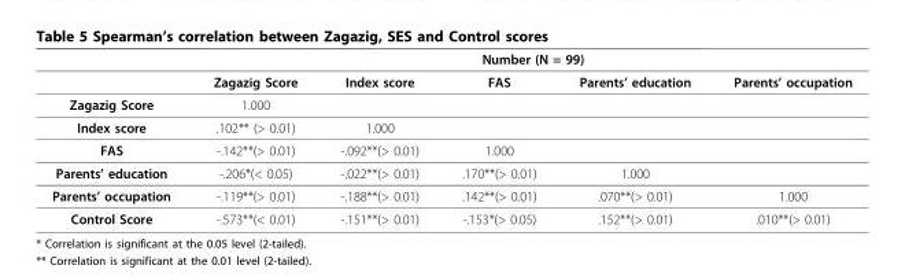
<table><thead><tr><td rowspan="2"></td><td colspan="5">Number (N = 99)</td></tr><tr><td>Zagazig Score</td><td>Index score</td><td>FAS</td><td>Parents’ education</td><td>Parents’ occupation</td></tr></thead><tbody><tr><td>Zagazig Score</td><td>1.000</td><td></td><td></td><td></td><td></td></tr><tr><td>Index score</td><td>.102** (&gt; 0.01)</td><td>1.000</td><td></td><td></td><td></td></tr><tr><td>FAS</td><td>-.142**(&gt; 0.01)</td><td>-.092**(&gt; 0.01)</td><td>1.000</td><td></td><td></td></tr><tr><td>Parents’ education</td><td>-.206*(&lt; 0.05)</td><td>-.022**(&gt; 0.01)</td><td>.170**(&gt; 0.01)</td><td>1.000</td><td></td></tr><tr><td>Parents’ occupation</td><td>-.119**(&gt; 0.01)</td><td>-.188**(&gt; 0.01)</td><td>.142**(&gt; 0.01)</td><td>.070**(&gt; 0.01)</td><td>1.000</td></tr><tr><td>Control Score</td><td>-.573**(&lt; 0.01)</td><td>-.151**(&gt; 0.01)</td><td>-.153*(&gt; 0.05)</td><td>.152**(&gt; 0.01)</td><td>.010**(&gt; 0.01)</td></tr></tbody></table>